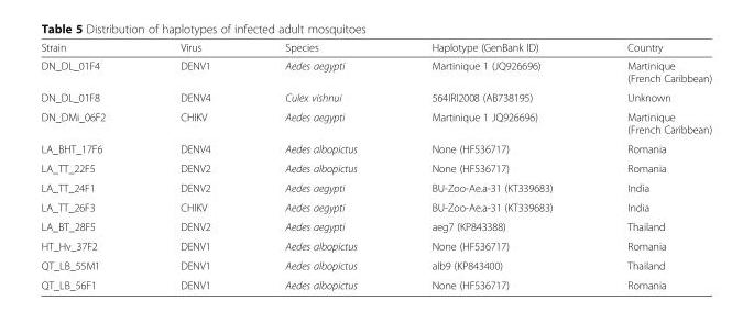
<table><thead><tr><td>Strain</td><td>Virus</td><td>Species</td><td>Haplotype (GenBank ID)</td><td>Country</td></tr></thead><tbody><tr><td>DN_DL_01F4</td><td>DENV1</td><td>Aedes aegypti</td><td>Martinique 1 (JQ926696)</td><td>Martinique (French Caribbean)</td></tr><tr><td>DN_DL_01F8</td><td>DENV4</td><td>Culex vishnui</td><td>564IRI2008 (AB738195)</td><td>Unknown</td></tr><tr><td>DN_DMi_06F2</td><td>CHIKV</td><td>Aedes aegypti</td><td>Martinique 1 JQ926696)</td><td>Martinique (French Caribbean)</td></tr><tr><td>LA_BHT_17F6</td><td>DENV4</td><td>Aedes albopictus</td><td>None (HF536717)</td><td>Romania</td></tr><tr><td>LA_TT_22F5</td><td>DENV2</td><td>Aedes albopictus</td><td>None (HF536717)</td><td>Romania</td></tr><tr><td>LA_TT_24F1</td><td>DENV2</td><td>Aedes aegypti</td><td>BU-Zoo-Ae.a-31 (KT339683)</td><td>India</td></tr><tr><td>LA_TT_26F3</td><td>CHIKV</td><td>Aedes aegypti</td><td>BU-Zoo-Ae.a-31 (KT339683)</td><td>India</td></tr><tr><td>LA_BT_28F5</td><td>DENV2</td><td>Aedes aegypti</td><td>aeg7 (KP843388)</td><td>Thailand</td></tr><tr><td>HT_Hv_37F2</td><td>DENV1</td><td>Aedes albopictus</td><td>None (HF536717)</td><td>Romania</td></tr><tr><td>QT_LB_55M1</td><td>DENV1</td><td>Aedes albopictus</td><td>alb9 (KP843400)</td><td>Thailand</td></tr><tr><td>QT_LB_56F1</td><td>DENV1</td><td>Aedes albopictus</td><td>None (HF536717)</td><td>Romania</td></tr></tbody></table>